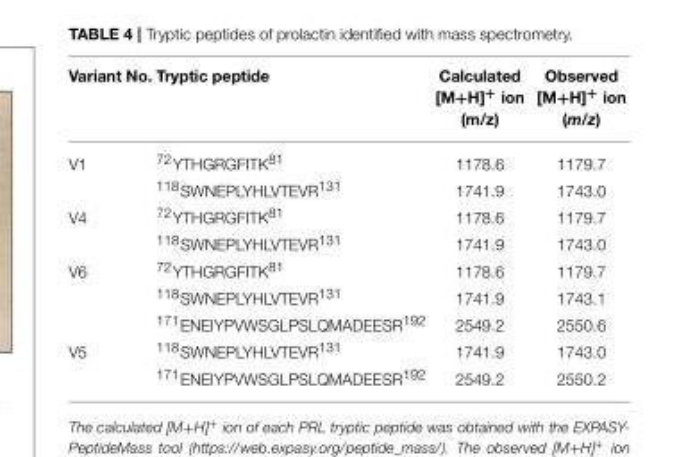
<table><thead><tr><td>Variant No.</td><td>Tryptic peptide</td><td>Calculated [M+H]<sup>+</sup> ion (m/z)</td><td>Observed [M+H]<sup>+</sup> ion (m/z)</td></tr></thead><tbody><tr><td rowspan="2">V1</td><td><sup>72</sup>YTHGRGFITK<sup>81</sup></td><td>1178.6</td><td>1179.7</td></tr><tr><td><sup>118</sup>SWNEPLYHLVTEVR<sup>131</sup></td><td>1741.9</td><td>1743.0</td></tr><tr><td rowspan="2">V4</td><td><sup>72</sup>YTHGRGFITK<sup>81</sup></td><td>1178.6</td><td>1179.7</td></tr><tr><td><sup>118</sup>SWNEPLYHLVTEVR<sup>131</sup></td><td>1741.9</td><td>1743.0</td></tr><tr><td rowspan="3">V6</td><td><sup>72</sup>YTHGRGFITK<sup>81</sup></td><td>1178.6</td><td>1179.7</td></tr><tr><td><sup>118</sup>SWNEPLYHLVTEVR<sup>131</sup></td><td>1741.9</td><td>1743.1</td></tr><tr><td><sup>171</sup>ENEIYPVWSGLPSLQMADEESR<sup>192</sup></td><td>2549.2</td><td>2550.6</td></tr><tr><td rowspan="2">V5</td><td><sup>118</sup>SWNEPLYHLVTEVR<sup>131</sup></td><td>1741.9</td><td>1743.0</td></tr><tr><td><sup>171</sup>ENEIYPVWSGLPSLQMADEESR<sup>192</sup></td><td>2549.2</td><td>2550.2</td></tr></tbody></table>